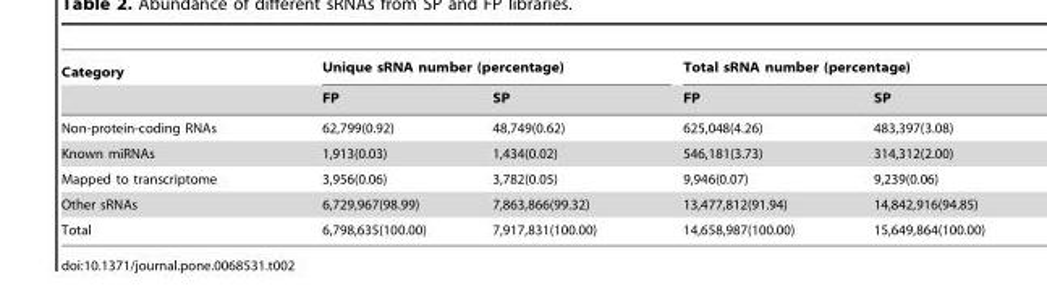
<table><thead><tr><td rowspan="2">Category</td><td colspan="2">Unique sRNA number (percentage)</td><td colspan="2">Total sRNA number (percentage)</td></tr><tr><td>FP</td><td>SP</td><td>FP</td><td>SP</td></tr></thead><tbody><tr><td>Non-protein-coding RNAs</td><td>62,799(0.92)</td><td>48,749(0.62)</td><td>625,048(4.26)</td><td>483,397(3.08)</td></tr><tr><td>Known miRNAs</td><td>1,913(0.03)</td><td>1,434(0.02)</td><td>546,181(3.73)</td><td>314,312(2.00)</td></tr><tr><td>Mapped to transcriptome</td><td>3,956(0.06)</td><td>3,782(0.05)</td><td>9,946(0.07)</td><td>9,239(0.06)</td></tr><tr><td>Other sRNAs</td><td>6,729,967(98.99)</td><td>7,863,866(99.32)</td><td>13,477,812(91.94)</td><td>14,842,916(94.85)</td></tr><tr><td>Total</td><td>6,798,635(100.00)</td><td>7,917,831(100.00)</td><td>14,658,987(100.00)</td><td>15,649,864(100.00)</td></tr></tbody></table>